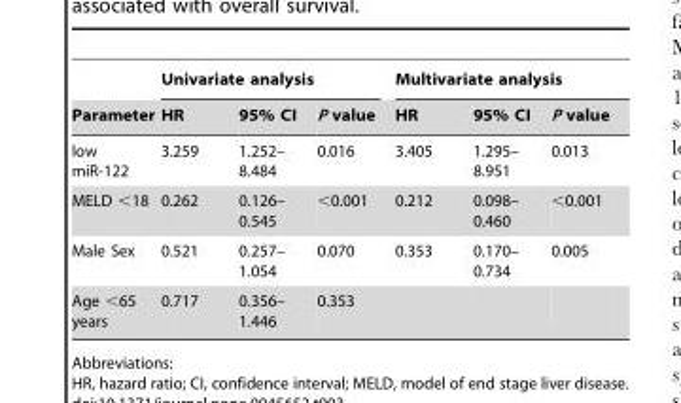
<table><thead><tr><td rowspan="2">Parameter</td><td colspan="3">Univariate analysis</td><td colspan="3">Multivariate analysis</td></tr><tr><td>HR</td><td>95% CI</td><td>P value</td><td>HR</td><td>95% CI</td><td>P value</td></tr></thead><tbody><tr><td>low miR-122</td><td>3.259</td><td>1.252– 8.484</td><td>0.016</td><td>3.405</td><td>1.295– 8.951</td><td>0.013</td></tr><tr><td>MELD &lt;18</td><td>0.262</td><td>0.126– 0.545</td><td>&lt;0.001</td><td>0.212</td><td>0.098– 0.460</td><td>&lt;0.001</td></tr><tr><td>Male Sex</td><td>0.521</td><td>0.257– 1.054</td><td>0.070</td><td>0.353</td><td>0.170– 0.734</td><td>0.005</td></tr><tr><td>Age &lt;65 years</td><td>0.717</td><td>0.356– 1.446</td><td>0.353</td><td></td><td></td><td></td></tr></tbody></table>